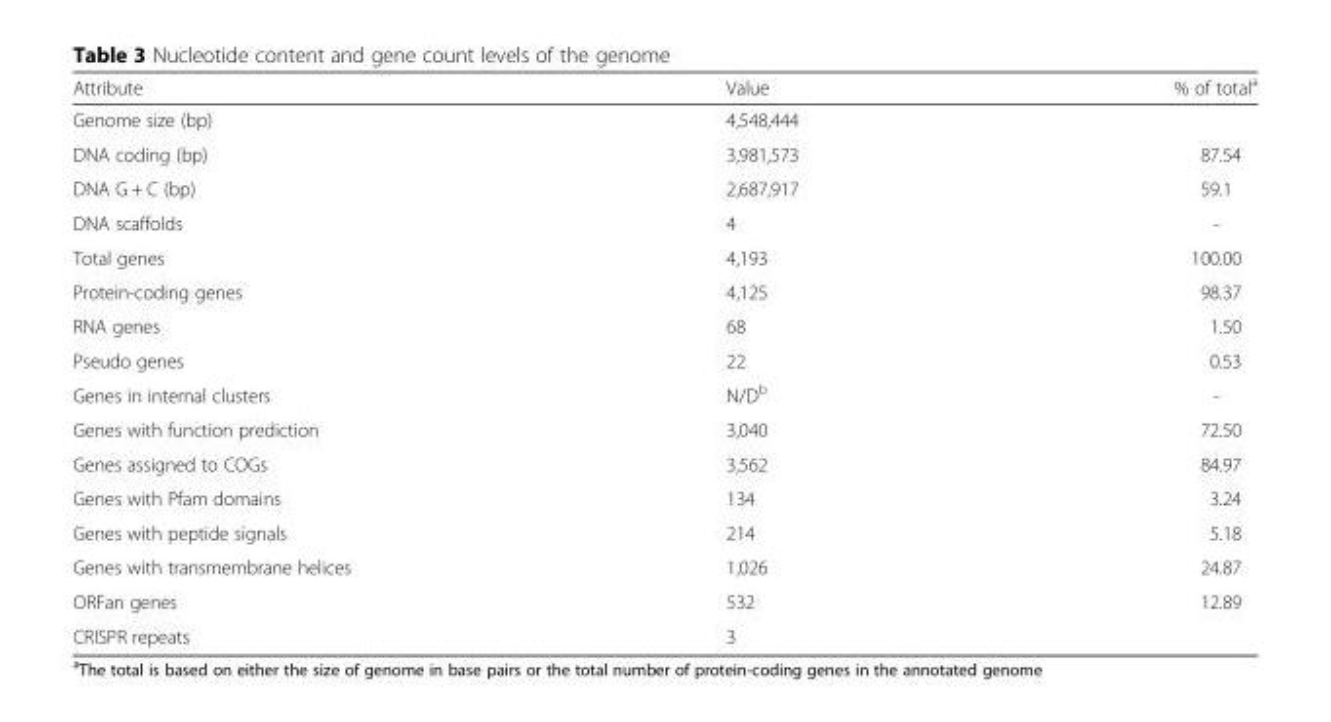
<table><thead><tr><td>Attribute</td><td>Value</td><td>% of total<sup>a</sup></td></tr></thead><tbody><tr><td>Genome size (bp)</td><td>4,548,444</td><td></td></tr><tr><td>DNA coding (bp)</td><td>3,981,573</td><td>87.54</td></tr><tr><td>DNA G + C (bp)</td><td>2,687,917</td><td>59.1</td></tr><tr><td>DNA scaffolds</td><td>4</td><td>-</td></tr><tr><td>Total genes</td><td>4,193</td><td>100.00</td></tr><tr><td>Protein-coding genes</td><td>4,125</td><td>98.37</td></tr><tr><td>RNA genes</td><td>68</td><td>1.50</td></tr><tr><td>Pseudo genes</td><td>22</td><td>0.53</td></tr><tr><td>Genes in internal clusters</td><td>N/D<sup>b</sup></td><td>-</td></tr><tr><td>Genes with function prediction</td><td>3,040</td><td>72.50</td></tr><tr><td>Genes assigned to COGs</td><td>3,562</td><td>84.97</td></tr><tr><td>Genes with Pfam domains</td><td>134</td><td>3.24</td></tr><tr><td>Genes with peptide signals</td><td>214</td><td>5.18</td></tr><tr><td>Genes with transmembrane helices</td><td>1,026</td><td>24.87</td></tr><tr><td>ORFan genes</td><td>532</td><td>12.89</td></tr><tr><td>CRISPR repeats</td><td>3</td><td></td></tr></tbody></table>